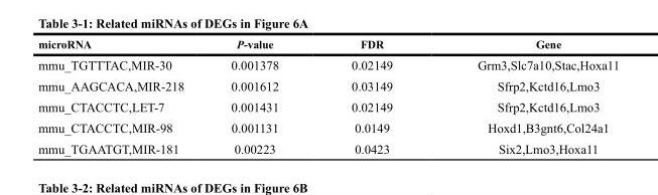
<table><thead><tr><td>micrornA</td><td>P-value</td><td>Fdr</td><td>Gene</td></tr></thead><tbody><tr><td>mmu_TGTTTAC,MIR-30</td><td>0.001378</td><td>0.02149</td><td>Grm3,Slc7a10,Stac,Hoxa11</td></tr><tr><td>mmu_AAGCACA,MIR-218</td><td>0.001612</td><td>0.03149</td><td>Sfrp2,Kctd16,Lmo3</td></tr><tr><td>mmu_CTACCTC,LET-7</td><td>0.001431</td><td>0.02149</td><td>Sfrp2,Kctd16,Lmo3</td></tr><tr><td>mmu_CTACCTC,MIR-98</td><td>0.001131</td><td>0.0149</td><td>Hoxd1,B3gnt6,Col24a1</td></tr><tr><td>mmu_TGAATGT,MIR-181</td><td>0.00223</td><td>0.0423</td><td>Six2,Lmo3,Hoxa11</td></tr></tbody></table>